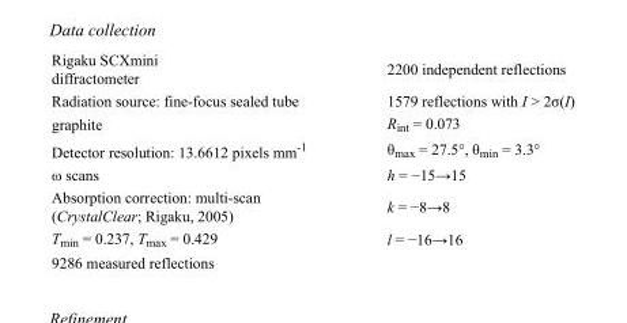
<table><tbody><tr><td>Rigaku SCXmini diffractometer</td><td>2200 independent reflections</td></tr><tr><td>Radiation source: fine-focus sealed tube</td><td>1579 reflections with I &gt; 2σ(I)</td></tr><tr><td>graphite</td><td>R<sub>int</sub> = 0.073</td></tr><tr><td>Detector resolution: 13.6612 pixels mm<sup>-1</sup></td><td>θ<sub>max</sub> = 27.5°, θ<sub>min</sub> = 3.3°</td></tr><tr><td>ω scans</td><td>h = −15→15</td></tr><tr><td>Absorption correction: multi-scan (CrystalClear; Rigaku, 2005)</td><td>k = −8→8</td></tr><tr><td>T<sub>min</sub> = 0.237, T<sub>max</sub> = 0.429</td><td>l = −16→16</td></tr><tr><td>9286 measured reflections</td><td></td></tr></tbody></table>